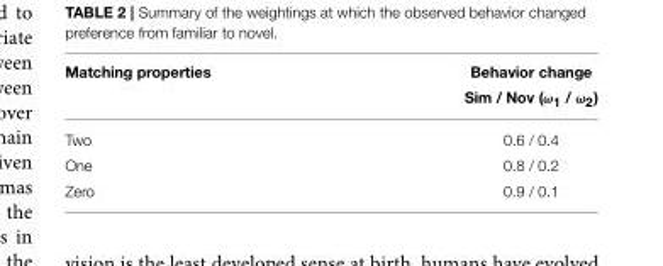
<table><thead><tr><td rowspan="2">Matching properties</td><td rowspan="2">Behavior change Sim / Nov (ω<sub>1</sub> / ω<sub>2</sub>)</td></tr><tr></tr></thead><tbody><tr><td>Two</td><td>0.6 / 0.4</td></tr><tr><td>One</td><td>0.8 / 0.2</td></tr><tr><td>Zero</td><td>0.9 / 0.1</td></tr></tbody></table>